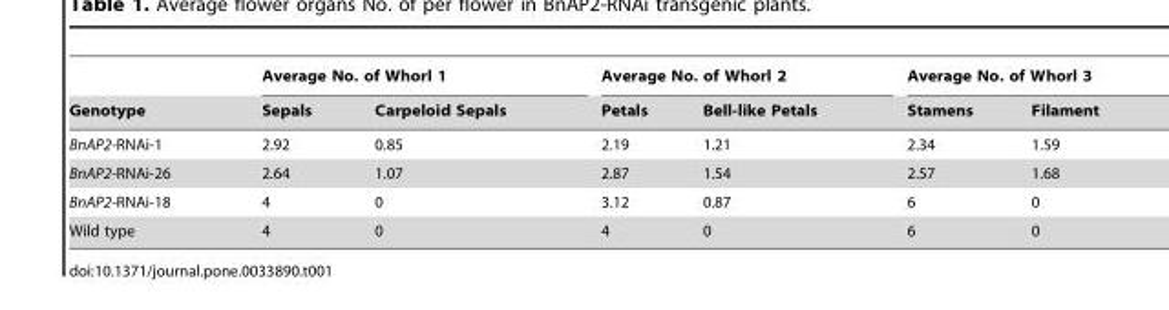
<table><thead><tr><td rowspan="2">Genotype</td><td colspan="2">Average No. of Whorl 1</td><td colspan="2">Average No. of Whorl 2</td><td colspan="2">Average No. of Whorl 3</td></tr><tr><td>Sepals</td><td>Carpeloid Sepals</td><td>Petals</td><td>Bell-like Petals</td><td>Stamens</td><td>Filament</td></tr></thead><tbody><tr><td>BnAP2-RNAi-1</td><td>2.92</td><td>0.85</td><td>2.19</td><td>1.21</td><td>2.34</td><td>1.59</td></tr><tr><td>BnAP2-RNAi-26</td><td>2.64</td><td>1.07</td><td>2.87</td><td>1.54</td><td>2.57</td><td>1.68</td></tr><tr><td>BnAP2-RNAi-18</td><td>4</td><td>0</td><td>3.12</td><td>0.87</td><td>6</td><td>0</td></tr><tr><td>Wild type</td><td>4</td><td>0</td><td>4</td><td>0</td><td>6</td><td>0</td></tr></tbody></table>